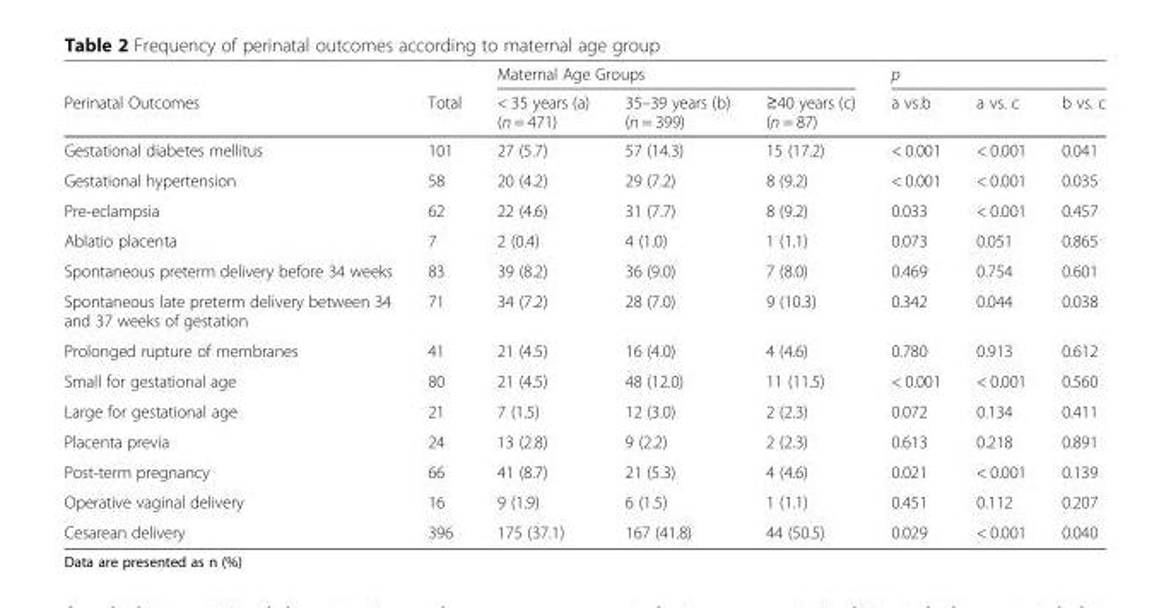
<table><thead><tr><td rowspan="2">Perinatal Outcomes</td><td rowspan="2">Total</td><td colspan="3">Maternal Age Groups</td><td colspan="3">p</td></tr><tr><td>&lt; 35 years (a) (n = 471)</td><td>35–39 years (b) (n = 399)</td><td>≥40 years (c) (n = 87)</td><td>a vs.b</td><td>a vs. c</td><td>b vs. c</td></tr></thead><tbody><tr><td>Gestational diabetes mellitus</td><td>101</td><td>27 (5.7)</td><td>57 (14.3)</td><td>15 (17.2)</td><td>&lt; 0.001</td><td>&lt; 0.001</td><td>0.041</td></tr><tr><td>Gestational hypertension</td><td>58</td><td>20 (4.2)</td><td>29 (7.2)</td><td>8 (9.2)</td><td>&lt; 0.001</td><td>&lt; 0.001</td><td>0.035</td></tr><tr><td>Pre-eclampsia</td><td>62</td><td>22 (4.6)</td><td>31 (7.7)</td><td>8 (9.2)</td><td>0.033</td><td>&lt; 0.001</td><td>0.457</td></tr><tr><td>Ablatio placenta</td><td>7</td><td>2 (0.4)</td><td>4 (1.0)</td><td>1 (1.1)</td><td>0.073</td><td>0.051</td><td>0.865</td></tr><tr><td>Spontaneous preterm delivery before 34 weeks</td><td>83</td><td>39 (8.2)</td><td>36 (9.0)</td><td>7 (8.0)</td><td>0.469</td><td>0.754</td><td>0.601</td></tr><tr><td>Spontaneous late preterm delivery between 34 and 37 weeks of gestation</td><td>71</td><td>34 (7.2)</td><td>28 (7.0)</td><td>9 (10.3)</td><td>0.342</td><td>0.044</td><td>0.038</td></tr><tr><td>Prolonged rupture of membranes</td><td>41</td><td>21 (4.5)</td><td>16 (4.0)</td><td>4 (4.6)</td><td>0.780</td><td>0.913</td><td>0.612</td></tr><tr><td>Small for gestational age</td><td>80</td><td>21 (4.5)</td><td>48 (12.0)</td><td>11 (11.5)</td><td>&lt; 0.001</td><td>&lt; 0.001</td><td>0.560</td></tr><tr><td>Large for gestational age</td><td>21</td><td>7 (1.5)</td><td>12 (3.0)</td><td>2 (2.3)</td><td>0.072</td><td>0.134</td><td>0.411</td></tr><tr><td>Placenta previa</td><td>24</td><td>13 (2.8)</td><td>9 (2.2)</td><td>2 (2.3)</td><td>0.613</td><td>0.218</td><td>0.891</td></tr><tr><td>Post-term pregnancy</td><td>66</td><td>41 (8.7)</td><td>21 (5.3)</td><td>4 (4.6)</td><td>0.021</td><td>&lt; 0.001</td><td>0.139</td></tr><tr><td>Operative vaginal delivery</td><td>16</td><td>9 (1.9)</td><td>6 (1.5)</td><td>1 (1.1)</td><td>0.451</td><td>0.112</td><td>0.207</td></tr><tr><td>Cesarean delivery</td><td>396</td><td>175 (37.1)</td><td>167 (41.8)</td><td>44 (50.5)</td><td>0.029</td><td>&lt; 0.001</td><td>0.040</td></tr></tbody></table>